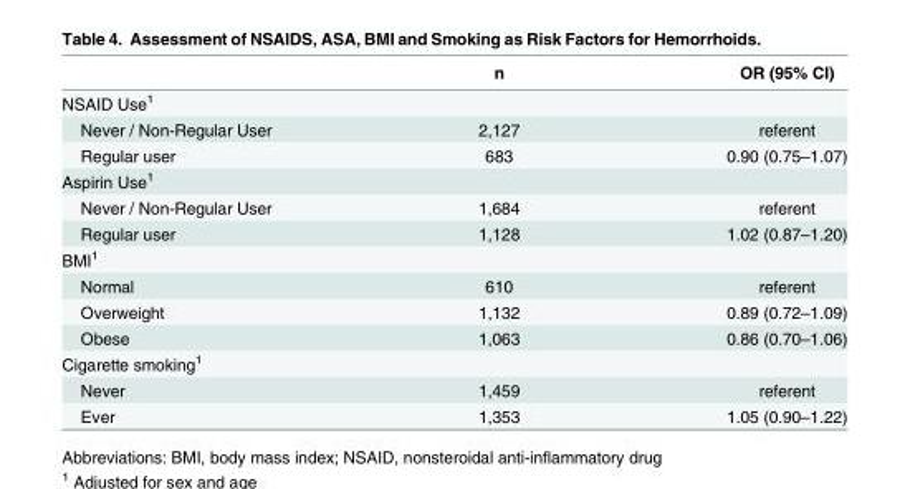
<table><thead><tr><td></td><td>n</td><td>OR (95% CI)</td></tr></thead><tbody><tr><td colspan="3">NSAID Use<sup>1</sup></td></tr><tr><td>Never / Non-Regular User</td><td>2,127</td><td>referent</td></tr><tr><td>Regular user</td><td>683</td><td>0.90 (0.75–1.07)</td></tr><tr><td colspan="3">Aspirin Use<sup>1</sup></td></tr><tr><td>Never / Non-Regular User</td><td>1,684</td><td>referent</td></tr><tr><td>Regular user</td><td>1,128</td><td>1.02 (0.87–1.20)</td></tr><tr><td colspan="3">BMI<sup>1</sup></td></tr><tr><td>Normal</td><td>610</td><td>referent</td></tr><tr><td>Overweight</td><td>1,132</td><td>0.89 (0.72–1.09)</td></tr><tr><td>Obese</td><td>1,063</td><td>0.86 (0.70–1.06)</td></tr><tr><td colspan="3">Cigarette smoking<sup>1</sup></td></tr><tr><td>Never</td><td>1,459</td><td>referent</td></tr><tr><td>Ever</td><td>1,353</td><td>1.05 (0.90–1.22)</td></tr></tbody></table>